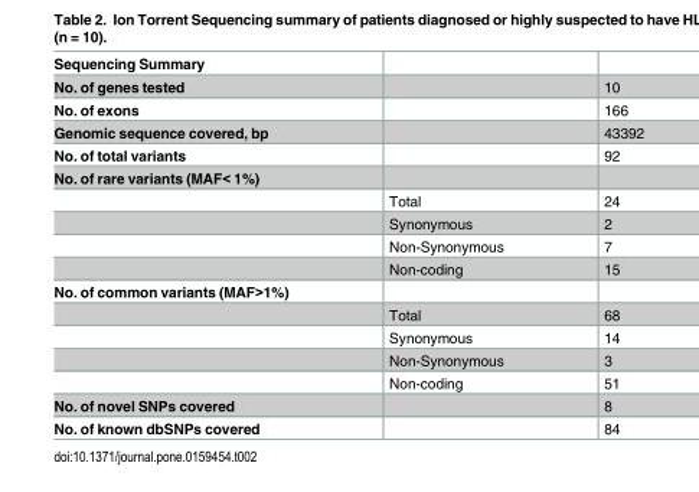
<table><thead><tr><td>Sequencing Summary</td><td></td><td></td></tr></thead><tbody><tr><td>No. of genes tested</td><td></td><td>10</td></tr><tr><td>No. of exons</td><td></td><td>166</td></tr><tr><td>Genomic sequence covered, bp</td><td></td><td>43392</td></tr><tr><td>No. of total variants</td><td></td><td>92</td></tr><tr><td colspan="3">No. of rare variants (MAF&lt; 1%)</td></tr><tr><td></td><td>Total</td><td>24</td></tr><tr><td></td><td>Synonymous</td><td>2</td></tr><tr><td></td><td>Non-Synonymous</td><td>7</td></tr><tr><td></td><td>Non-coding</td><td>15</td></tr><tr><td colspan="3">No. of common variants (MAF&gt;1%)</td></tr><tr><td></td><td>Total</td><td>68</td></tr><tr><td></td><td>Synonymous</td><td>14</td></tr><tr><td></td><td>Non-Synonymous</td><td>3</td></tr><tr><td></td><td>Non-coding</td><td>51</td></tr><tr><td>No. of novel SNPs covered</td><td></td><td>8</td></tr><tr><td>No. of known dbSNPs covered</td><td></td><td>84</td></tr></tbody></table>